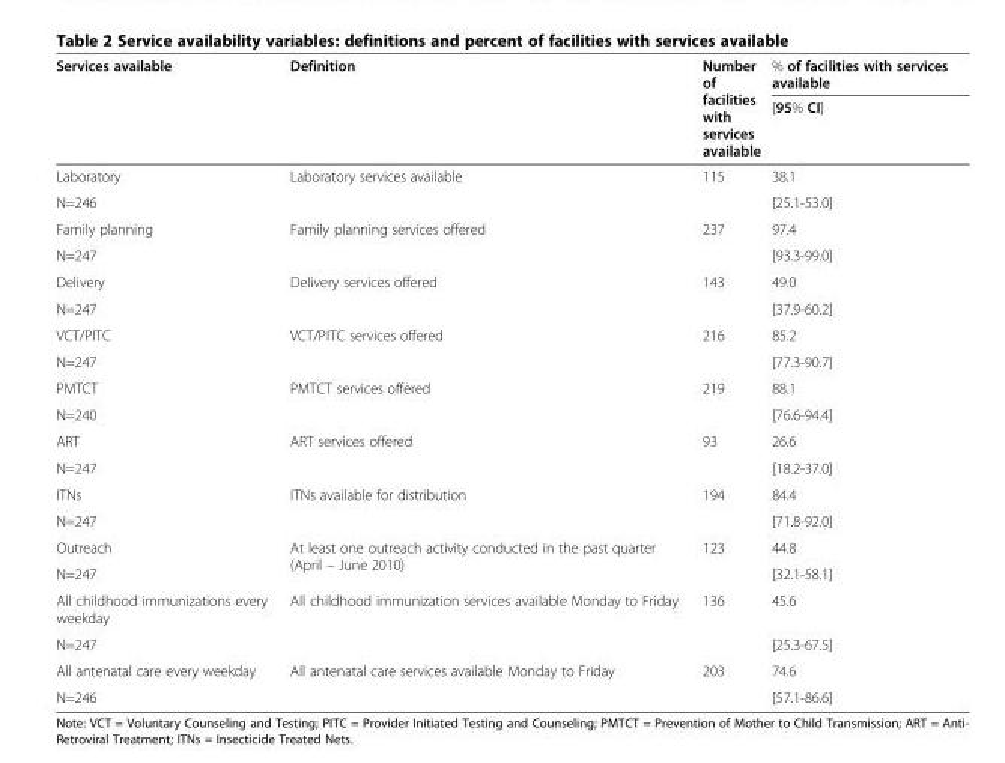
<table><thead><tr><td rowspan="2">Services available</td><td rowspan="2">Definition</td><td rowspan="2">Number of facilities with services available</td><td rowspan="2">% of facilities with services available [95% CI]</td></tr><tr></tr></thead><tbody><tr><td>Laboratory</td><td rowspan="2">Laboratory services available</td><td rowspan="2">115</td><td>38.1</td></tr><tr><td>N=246</td><td>[25.1-53.0]</td></tr><tr><td>Family planning</td><td rowspan="2">Family planning services offered</td><td rowspan="2">237</td><td>97.4</td></tr><tr><td>N=247</td><td>[93.3-99.0]</td></tr><tr><td>Delivery</td><td rowspan="2">Delivery services offered</td><td rowspan="2">143</td><td>49.0</td></tr><tr><td>N=247</td><td>[37.9-60.2]</td></tr><tr><td>VCT/PITC</td><td rowspan="2">VCT/PITC services offered</td><td rowspan="2">216</td><td>85.2</td></tr><tr><td>N=247</td><td>[77.3-90.7]</td></tr><tr><td>PMTCT</td><td rowspan="2">PMTCT services offered</td><td rowspan="2">219</td><td>88.1</td></tr><tr><td>N=240</td><td>[76.6-94.4]</td></tr><tr><td>ART</td><td rowspan="2">ART services offered</td><td rowspan="2">93</td><td>26.6</td></tr><tr><td>N=247</td><td>[18.2-37.0]</td></tr><tr><td>ITNs</td><td rowspan="2">ITNs available for distribution</td><td rowspan="2">194</td><td>84.4</td></tr><tr><td>N=247</td><td>[71.8-92.0]</td></tr><tr><td>Outreach</td><td rowspan="2">At least one outreach activity conducted in the past quarter (April – June 2010)</td><td rowspan="2">123</td><td>44.8</td></tr><tr><td>N=247</td><td>[32.1-58.1]</td></tr><tr><td>All childhood immunizations every weekday</td><td rowspan="2">All childhood immunization services available Monday to Friday</td><td rowspan="2">136</td><td>45.6</td></tr><tr><td>N=247</td><td>[25.3-67.5]</td></tr><tr><td>All antenatal care every weekday</td><td rowspan="2">All antenatal care services available Monday to Friday</td><td rowspan="2">203</td><td>74.6</td></tr><tr><td>N=246</td><td>[57.1-86.6]</td></tr></tbody></table>